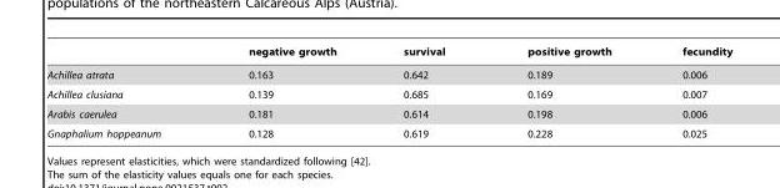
<table><thead><tr><td></td><td>negative growth</td><td>survival</td><td>positive growth</td><td>fecundity</td></tr></thead><tbody><tr><td>Achillea atrata</td><td>0.163</td><td>0.642</td><td>0.189</td><td>0.006</td></tr><tr><td>Achillea clusiana</td><td>0.139</td><td>0.685</td><td>0.169</td><td>0.007</td></tr><tr><td>Arabis caerulea</td><td>0.181</td><td>0.614</td><td>0.198</td><td>0.006</td></tr><tr><td>Gnaphalium hoppeanum</td><td>0.128</td><td>0.619</td><td>0.228</td><td>0.025</td></tr></tbody></table>